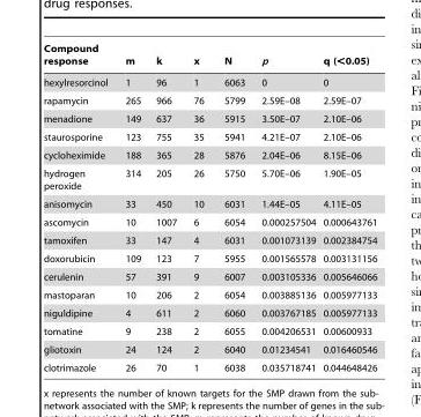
<table><thead><tr><td>Compound response</td><td>m</td><td>k</td><td>x</td><td>N</td><td>p</td><td>q (&lt;0.05)</td></tr></thead><tbody><tr><td>hexylresorcinol</td><td>1</td><td>96</td><td>1</td><td>6063</td><td>0</td><td>0</td></tr><tr><td>rapamycin</td><td>265</td><td>966</td><td>76</td><td>5799</td><td>2.59E–08</td><td>2.59E–07</td></tr><tr><td>menadione</td><td>149</td><td>637</td><td>36</td><td>5915</td><td>3.50E–07</td><td>2.10E–06</td></tr><tr><td>staurosporine</td><td>123</td><td>755</td><td>35</td><td>5941</td><td>4.21E–07</td><td>2.10E–06</td></tr><tr><td>cycloheximide</td><td>188</td><td>365</td><td>28</td><td>5876</td><td>2.04E–06</td><td>8.15E–06</td></tr><tr><td>hydrogen peroxide</td><td>314</td><td>205</td><td>26</td><td>5750</td><td>5.70E–06</td><td>1.90E–05</td></tr><tr><td>anisomycin</td><td>33</td><td>450</td><td>10</td><td>6031</td><td>1.44E–05</td><td>4.11E–05</td></tr><tr><td>ascomycin</td><td>10</td><td>1007</td><td>6</td><td>6054</td><td>0.000257504</td><td>0.000643761</td></tr><tr><td>tamoxifen</td><td>33</td><td>147</td><td>4</td><td>6031</td><td>0.001073139</td><td>0.002384754</td></tr><tr><td>doxorubicin</td><td>109</td><td>123</td><td>7</td><td>5955</td><td>0.001565578</td><td>0.003131156</td></tr><tr><td>cerulenin</td><td>57</td><td>391</td><td>9</td><td>6007</td><td>0.003105336</td><td>0.005646066</td></tr><tr><td>mastoparan</td><td>10</td><td>206</td><td>2</td><td>6054</td><td>0.003885136</td><td>0.005977133</td></tr><tr><td>niguldipine</td><td>4</td><td>611</td><td>2</td><td>6060</td><td>0.003767185</td><td>0.005977133</td></tr><tr><td>tomatine</td><td>9</td><td>238</td><td>2</td><td>6055</td><td>0.004206531</td><td>0.00600933</td></tr><tr><td>gliotoxin</td><td>24</td><td>124</td><td>2</td><td>6040</td><td>0.01234541</td><td>0.016460546</td></tr><tr><td>clotrimazole</td><td>26</td><td>70</td><td>1</td><td>6038</td><td>0.035718741</td><td>0.044648426</td></tr></tbody></table>